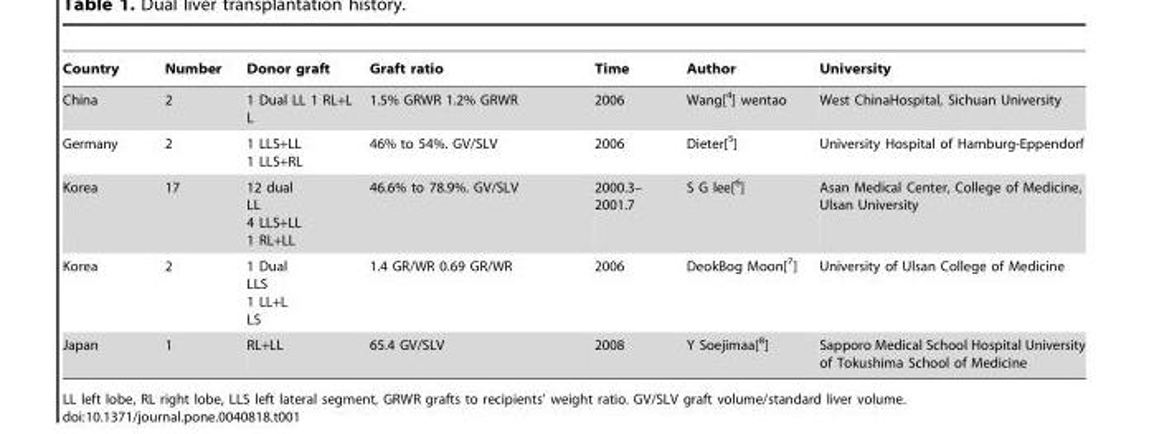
<table><thead><tr><td>Country</td><td>Number</td><td>Donor graft</td><td>Graft ratio</td><td>Time</td><td>Author</td><td>University</td></tr></thead><tbody><tr><td>China</td><td>2</td><td>1 Dual LL 1 RL+L L</td><td>1.5% GRWR 1.2% GRWR</td><td>2006</td><td>Wang[<sup>4</sup>] wentao</td><td>West ChinaHospital, Sichuan University</td></tr><tr><td>Germany</td><td>2</td><td>1 LLS+LL 1 LLS+RL</td><td>46% to 54%. GV/SLV</td><td>2006</td><td>Dieter[<sup>5</sup>]</td><td>University Hospital of Hamburg-Eppendorf</td></tr><tr><td>Korea</td><td>17</td><td>12 dual LL 4 LLS+LL 1 RL+LL</td><td>46.6% to 78.9%. GV/SLV</td><td>2000.3– 2001.7</td><td>S G lee[<sup>6</sup>]</td><td>Asan Medical Center, College of Medicine, Ulsan University</td></tr><tr><td>Korea</td><td>2</td><td>1 Dual LLS 1 LL+L LS</td><td>1.4 GR/WR 0.69 GR/WR</td><td>2006</td><td>DeokBog Moon[<sup>7</sup>]</td><td>University of Ulsan College of Medicine</td></tr><tr><td>Japan</td><td>1</td><td>RL+LL</td><td>65.4 GV/SLV</td><td>2008</td><td>Y Soejimaa[<sup>8</sup>]</td><td>Sapporo Medical School Hospital University of Tokushima School of Medicine</td></tr></tbody></table>